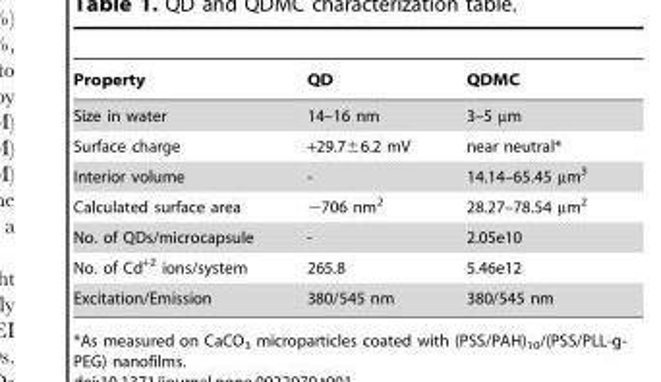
<table><thead><tr><td>Property</td><td>QD</td><td>QDMC</td></tr></thead><tbody><tr><td>Size in water</td><td>14–16 nm</td><td>3–5 µm</td></tr><tr><td>Surface charge</td><td>+29.7±6.2 mV</td><td>near neutral*</td></tr><tr><td>Interior volume</td><td>-</td><td>14.14–65.45 µm<sup>3</sup></td></tr><tr><td>Calculated surface area</td><td>∼706 nm<sup>2</sup></td><td>28.27–78.54 µm<sup>2</sup></td></tr><tr><td>No. of QDs/microcapsule</td><td>-</td><td>2.05e10</td></tr><tr><td>No. of Cd<sup>+2</sup> ions/system</td><td>265.8</td><td>5.46e12</td></tr><tr><td>Excitation/Emission</td><td>380/545 nm</td><td>380/545 nm</td></tr></tbody></table>